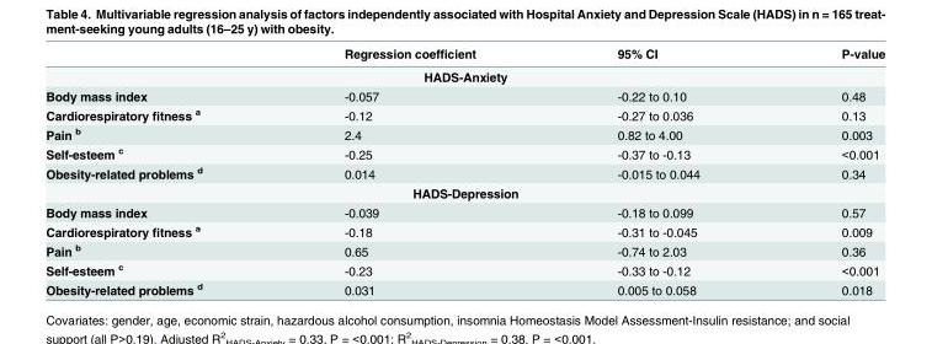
<table><thead><tr><td></td><td>Regression coefficient</td><td>95% CI</td><td>P-value</td></tr></thead><tbody><tr><td colspan="4">HADS-Anxiety</td></tr><tr><td>Body mass index</td><td>-0.057</td><td>-0.22 to 0.10</td><td>0.48</td></tr><tr><td>Cardiorespiratory fitness <sup>a</sup></td><td>-0.12</td><td>-0.27 to 0.036</td><td>0.13</td></tr><tr><td>Pain <sup>b</sup></td><td>2.4</td><td>0.82 to 4.00</td><td>0.003</td></tr><tr><td>Self-esteem <sup>c</sup></td><td>-0.25</td><td>-0.37 to -0.13</td><td>&lt;0.001</td></tr><tr><td>Obesity-related problems <sup>d</sup></td><td>0.014</td><td>-0.015 to 0.044</td><td>0.34</td></tr><tr><td colspan="4">HADS-Depression</td></tr><tr><td>Body mass index</td><td>-0.039</td><td>-0.18 to 0.099</td><td>0.57</td></tr><tr><td>Cardiorespiratory fitness <sup>a</sup></td><td>-0.18</td><td>-0.31 to -0.045</td><td>0.009</td></tr><tr><td>Pain <sup>b</sup></td><td>0.65</td><td>-0.74 to 2.03</td><td>0.36</td></tr><tr><td>Self-esteem <sup>c</sup></td><td>-0.23</td><td>-0.33 to -0.12</td><td>&lt;0.001</td></tr><tr><td>Obesity-related problems <sup>d</sup></td><td>0.031</td><td>0.005 to 0.058</td><td>0.018</td></tr></tbody></table>